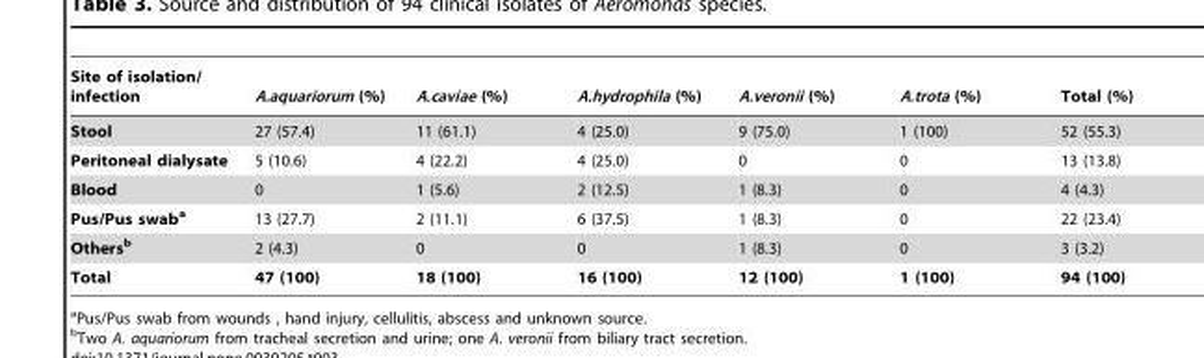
<table><thead><tr><td>Site of isolation/ infection</td><td>A.aquariorum (%)</td><td>A.caviae (%)</td><td>A.hydrophila (%)</td><td>A.veronii (%)</td><td>A.trota (%)</td><td>Total (%)</td></tr></thead><tbody><tr><td>Stool</td><td>27 (57.4)</td><td>11 (61.1)</td><td>4 (25.0)</td><td>9 (75.0)</td><td>1 (100)</td><td>52 (55.3)</td></tr><tr><td>Peritoneal dialysate</td><td>5 (10.6)</td><td>4 (22.2)</td><td>4 (25.0)</td><td>0</td><td>0</td><td>13 (13.8)</td></tr><tr><td>Blood</td><td>0</td><td>1 (5.6)</td><td>2 (12.5)</td><td>1 (8.3)</td><td>0</td><td>4 (4.3)</td></tr><tr><td>Pus/Pus swaba</td><td>13 (27.7)</td><td>2 (11.1)</td><td>6 (37.5)</td><td>1 (8.3)</td><td>0</td><td>22 (23.4)</td></tr><tr><td>Othersb</td><td>2 (4.3)</td><td>0</td><td>0</td><td>1 (8.3)</td><td>0</td><td>3 (3.2)</td></tr><tr><td>Total</td><td>47 (100)</td><td>18 (100)</td><td>16 (100)</td><td>12 (100)</td><td>1 (100)</td><td>94 (100)</td></tr></tbody></table>